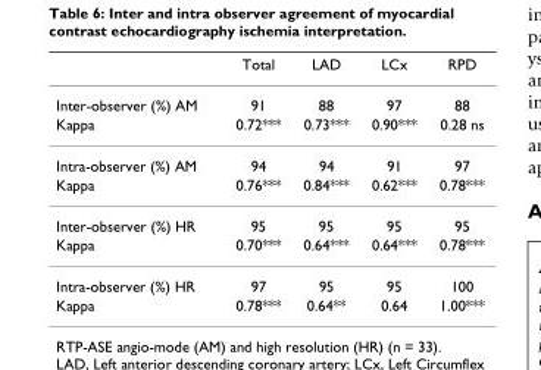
<table><thead><tr><td></td><td>Total</td><td>LAD</td><td>LCx</td><td>RPD</td></tr></thead><tbody><tr><td>Inter-observer (%) AM</td><td>91</td><td>88</td><td>97</td><td>88</td></tr><tr><td>Kappa</td><td>0.72***</td><td>0.73***</td><td>0.90***</td><td>0.28 ns</td></tr><tr><td>Intra-observer (%) AM</td><td>94</td><td>94</td><td>91</td><td>97</td></tr><tr><td>Kappa</td><td>0.76***</td><td>0.84***</td><td>0.62***</td><td>0.78***</td></tr><tr><td>Inter-observer (%) HR</td><td>95</td><td>95</td><td>95</td><td>95</td></tr><tr><td>Kappa</td><td>0.70***</td><td>0.64***</td><td>0.64***</td><td>0.78***</td></tr><tr><td>Intra-observer (%) HR</td><td>97</td><td>95</td><td>95</td><td>100</td></tr><tr><td>Kappa</td><td>0.78***</td><td>0.64**</td><td>0.64</td><td>1.00***</td></tr></tbody></table>